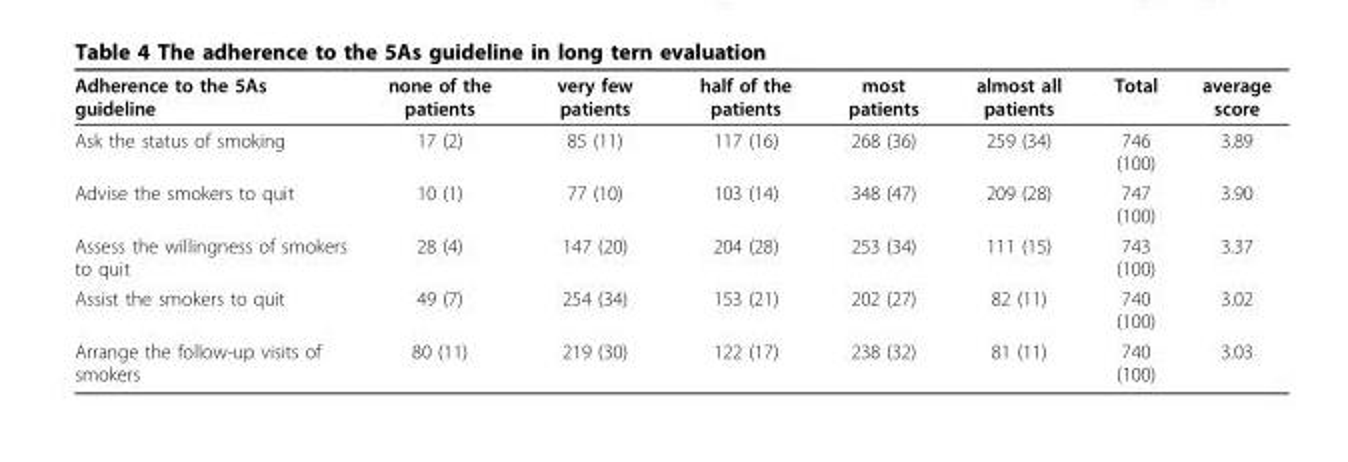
<table><thead><tr><td>Adherence to the 5As guideline</td><td>none of the patients</td><td>very few patients</td><td>half of the patients</td><td>most patients</td><td>almost all patients</td><td>Total</td><td>average score</td></tr></thead><tbody><tr><td>Ask the status of smoking</td><td>17 (2)</td><td>85 (11)</td><td>117 (16)</td><td>268 (36)</td><td>259 (34)</td><td>746 (100)</td><td>3.89</td></tr><tr><td>Advise the smokers to quit</td><td>10 (1)</td><td>77 (10)</td><td>103 (14)</td><td>348 (47)</td><td>209 (28)</td><td>747 (100)</td><td>3.90</td></tr><tr><td>Assess the willingness of smokers to quit</td><td>28 (4)</td><td>147 (20)</td><td>204 (28)</td><td>253 (34)</td><td>111 (15)</td><td>743 (100)</td><td>3.37</td></tr><tr><td>Assist the smokers to quit</td><td>49 (7)</td><td>254 (34)</td><td>153 (21)</td><td>202 (27)</td><td>82 (11)</td><td>740 (100)</td><td>3.02</td></tr><tr><td>Arrange the follow-up visits of smokers</td><td>80 (11)</td><td>219 (30)</td><td>122 (17)</td><td>238 (32)</td><td>81 (11)</td><td>740 (100)</td><td>3.03</td></tr></tbody></table>